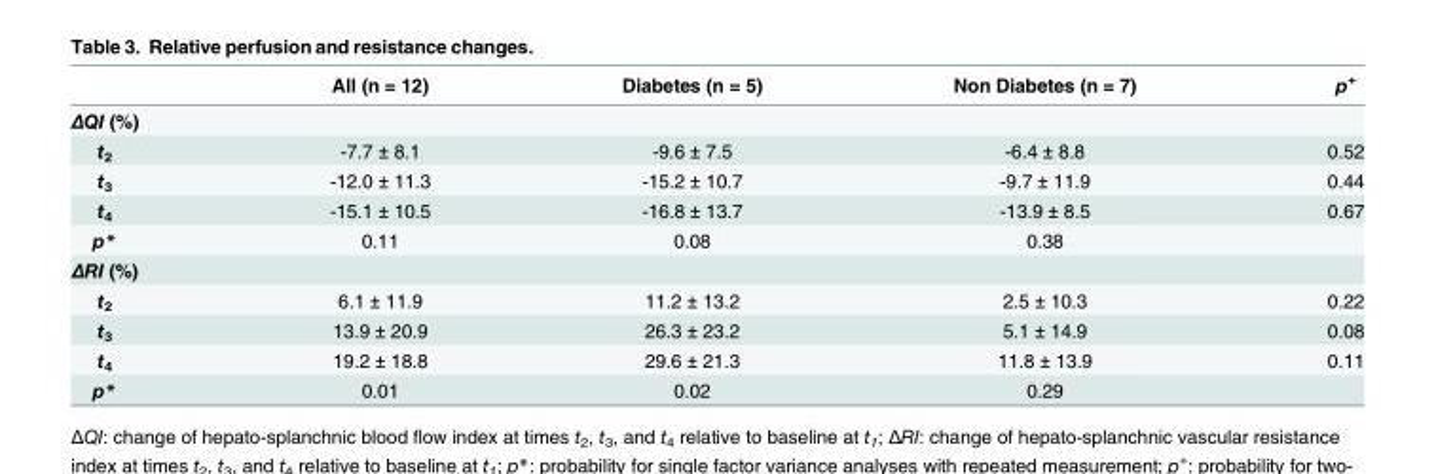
<table><thead><tr><td></td><td>All (n = 12)</td><td>Diabetes (n = 5)</td><td>Non Diabetes (n = 7)</td><td>p<sup>+</sup></td></tr></thead><tbody><tr><td colspan="5">ΔQI (%)</td></tr><tr><td>t<sub>2</sub></td><td>-7.7 ± 8.1</td><td>-9.6 ± 7.5</td><td>-6.4 ± 8.8</td><td>0.52</td></tr><tr><td>t<sub>3</sub></td><td>-12.0 ± 11.3</td><td>-15.2 ± 10.7</td><td>-9.7 ± 11.9</td><td>0.44</td></tr><tr><td>t<sub>4</sub></td><td>-15.1 ± 10.5</td><td>-16.8 ± 13.7</td><td>-13.9 ± 8.5</td><td>0.67</td></tr><tr><td>p*</td><td>0.11</td><td>0.08</td><td>0.38</td><td></td></tr><tr><td colspan="5">ΔRI (%)</td></tr><tr><td>t<sub>2</sub></td><td>6.1 ± 11.9</td><td>11.2 ± 13.2</td><td>2.5 ± 10.3</td><td>0.22</td></tr><tr><td>t<sub>3</sub></td><td>13.9 ± 20.9</td><td>26.3 ± 23.2</td><td>5.1 ± 14.9</td><td>0.08</td></tr><tr><td>t<sub>4</sub></td><td>19.2 ± 18.8</td><td>29.6 ± 21.3</td><td>11.8 ± 13.9</td><td>0.11</td></tr><tr><td>p*</td><td>0.01</td><td>0.02</td><td>0.29</td><td></td></tr></tbody></table>